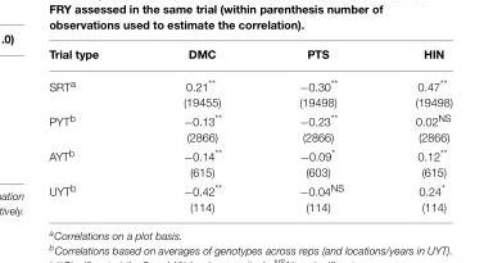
<table><thead><tr><td>Trial type</td><td>DMC</td><td>PTS</td><td>HIN</td></tr></thead><tbody><tr><td>SRT<sup>a</sup></td><td>0.21** (19455)</td><td>−0.30** (19498)</td><td>0.47** (19498)</td></tr><tr><td>PYT<sup>b</sup></td><td>−0.13** (2866)</td><td>−0.23** (2866)</td><td>0.02<sup>NS</sup> (2866)</td></tr><tr><td>AYT<sup>b</sup></td><td>−0.14** (615)</td><td>−0.09* (603)</td><td>0.12** (615)</td></tr><tr><td>UYT<sup>b</sup></td><td>−0.42** (114)</td><td>−0.04<sup>NS</sup> (114)</td><td>0.24* (114)</td></tr></tbody></table>